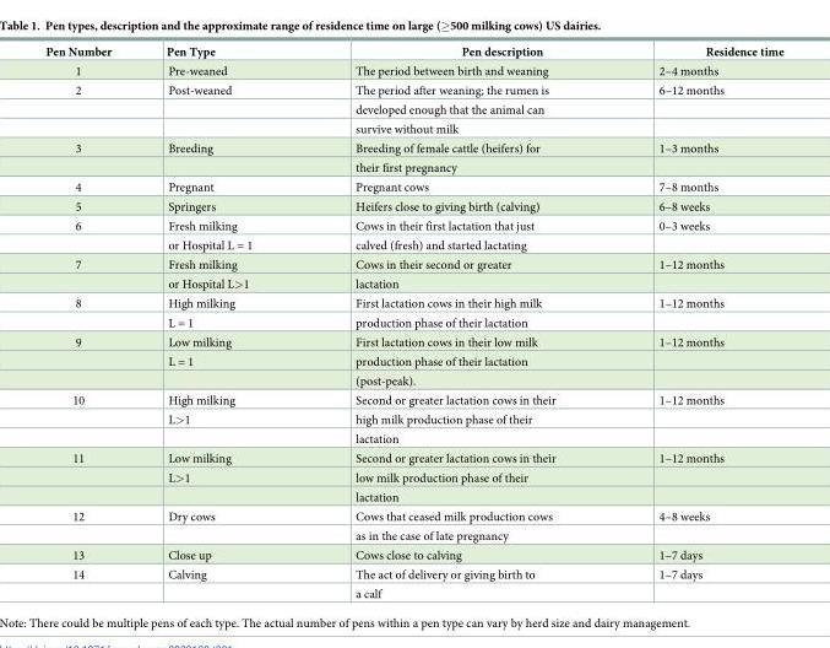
<table><thead><tr><td>Pen Number</td><td>Pen Type</td><td>Pen description</td><td>Residence time</td></tr></thead><tbody><tr><td>1</td><td>Pre-weaned</td><td>The period between birth and weaning</td><td>2–4 months</td></tr><tr><td rowspan="3">2</td><td>Post-weaned</td><td>The period after weaning; the rumen is</td><td>6–12 months</td></tr><tr><td></td><td>developed enough that the animal can</td><td></td></tr><tr><td></td><td>survive without milk</td><td></td></tr><tr><td rowspan="2">3</td><td>Breeding</td><td>Breeding of female cattle (heifers) for</td><td>1–3 months</td></tr><tr><td></td><td>their first pregnancy</td><td></td></tr><tr><td>4</td><td>Pregnant</td><td>Pregnant cows</td><td>7–8 months</td></tr><tr><td>5</td><td>Springers</td><td>Heifers close to giving birth (calving)</td><td>6–8 weeks</td></tr><tr><td rowspan="2">6</td><td>Fresh milking</td><td>Cows in their first lactation that just</td><td>0–3 weeks</td></tr><tr><td>or Hospital L = 1</td><td>calved (fresh) and started lactating</td><td></td></tr><tr><td rowspan="2">7</td><td>Fresh milking</td><td>Cows in their second or greater</td><td>1–12 months</td></tr><tr><td>or Hospital L&gt;1</td><td>lactation</td><td></td></tr><tr><td rowspan="2">8</td><td>High milking</td><td>First lactation cows in their high milk</td><td>1–12 months</td></tr><tr><td>L = 1</td><td>production phase of their lactation</td><td></td></tr><tr><td rowspan="3">9</td><td>Low milking</td><td>First lactation cows in their low milk</td><td>1–12 months</td></tr><tr><td>L = 1</td><td>production phase of their lactation</td><td></td></tr><tr><td></td><td>(post-peak).</td><td></td></tr><tr><td rowspan="3">10</td><td>High milking</td><td>Second or greater lactation cows in their</td><td>1–12 months</td></tr><tr><td>L&gt;1</td><td>high milk production phase of their</td><td></td></tr><tr><td></td><td>lactation</td><td></td></tr><tr><td rowspan="3">11</td><td>Low milking</td><td>Second or greater lactation cows in their</td><td>1–12 months</td></tr><tr><td>L&gt;1</td><td>low milk production phase of their</td><td></td></tr><tr><td></td><td>lactation</td><td></td></tr><tr><td rowspan="2">12</td><td>Dry cows</td><td>Cows that ceased milk production cows</td><td>4–8 weeks</td></tr><tr><td></td><td>as in the case of late pregnancy</td><td></td></tr><tr><td>13</td><td>Close up</td><td>Cows close to calving</td><td>1–7 days</td></tr><tr><td rowspan="2">14</td><td>Calving</td><td>The act of delivery or giving birth to</td><td>1–7 days</td></tr><tr><td></td><td>a calf</td><td></td></tr></tbody></table>